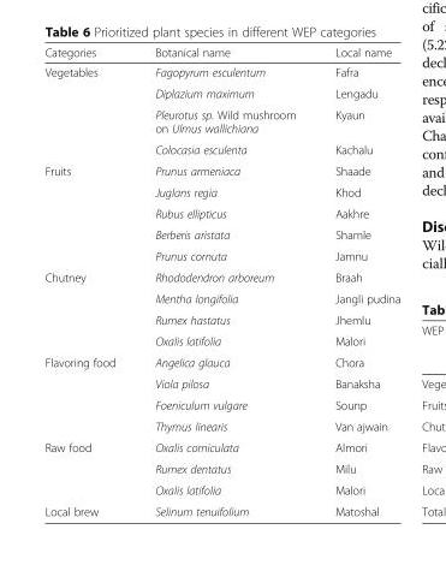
<table><thead><tr><td>Categories</td><td>Botanical name</td><td>Local name</td></tr></thead><tbody><tr><td rowspan="4">Vegetables</td><td>Fagopyrum esculentum</td><td>Fafra</td></tr><tr><td>Diplazium maximum</td><td>Lengadu</td></tr><tr><td>Pleurotus sp. Wild mushroom on Ulmus wallichiana</td><td>Kyaun</td></tr><tr><td>Colocasia esculenta</td><td>Kachalu</td></tr><tr><td rowspan="5">Fruits</td><td>Prunus armeniaca</td><td>Shaade</td></tr><tr><td>Juglans regia</td><td>Khod</td></tr><tr><td>Rubus ellipticus</td><td>Aakhre</td></tr><tr><td>Berberis aristata</td><td>Shamle</td></tr><tr><td>Prunus cornuta</td><td>Jamnu</td></tr><tr><td rowspan="4">Chutney</td><td>Rhododendron arboreum</td><td>Braah</td></tr><tr><td>Mentha longifolia</td><td>Jangli pudina</td></tr><tr><td>Rumex hastatus</td><td>Jhemlu</td></tr><tr><td>Oxalis latifolia</td><td>Malori</td></tr><tr><td rowspan="4">Flavoring food</td><td>Angelica glauca</td><td>Chora</td></tr><tr><td>Viola pilosa</td><td>Banaksha</td></tr><tr><td>Foeniculum vulgare</td><td>Sounp</td></tr><tr><td>Thymus linearis</td><td>Van ajwain</td></tr><tr><td rowspan="3">Raw food</td><td>Oxalis corniculata</td><td>Almori</td></tr><tr><td>Rumex dentatus</td><td>Milu</td></tr><tr><td>Oxalis latifolia</td><td>Malori</td></tr><tr><td>Local brew</td><td>Selinum tenuifolium</td><td>Matoshal</td></tr></tbody></table>